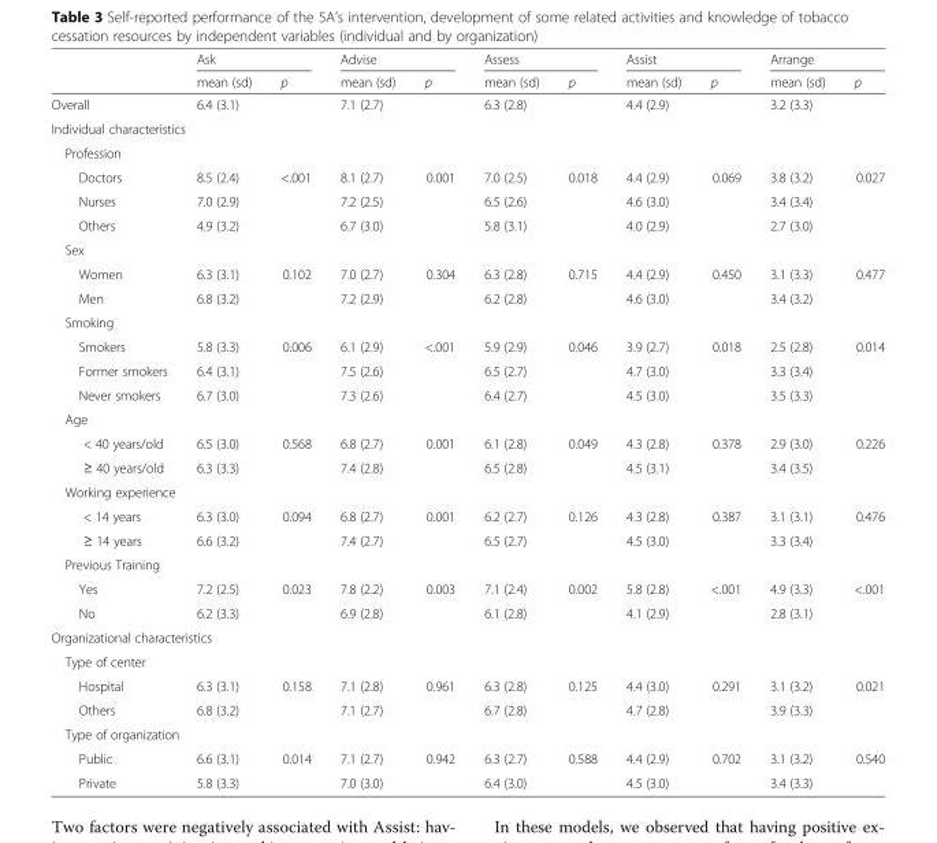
<table><thead><tr><td rowspan="2"></td><td colspan="2">Ask</td><td colspan="2">Advise</td><td colspan="2">Assess</td><td colspan="2">Assist</td><td colspan="2">Arrange</td></tr><tr><td>mean (sd)</td><td>p</td><td>mean (sd)</td><td>p</td><td>mean (sd)</td><td>p</td><td>mean (sd)</td><td>p</td><td>mean (sd)</td><td>p</td></tr></thead><tbody><tr><td>Overall</td><td>6.4 (3.1)</td><td></td><td>7.1 (2.7)</td><td></td><td>6.3 (2.8)</td><td></td><td>4.4 (2.9)</td><td></td><td>3.2 (3.3)</td><td></td></tr><tr><td colspan="11">Individual characteristics</td></tr><tr><td colspan="11">Profession</td></tr><tr><td>Doctors</td><td>8.5 (2.4)</td><td rowspan="3">&lt;.001</td><td>8.1 (2.7)</td><td rowspan="3">0.001</td><td>7.0 (2.5)</td><td rowspan="3">0.018</td><td>4.4 (2.9)</td><td rowspan="3">0.069</td><td>3.8 (3.2)</td><td rowspan="3">0.027</td></tr><tr><td>Nurses</td><td>7.0 (2.9)</td><td>7.2 (2.5)</td><td>6.5 (2.6)</td><td>4.6 (3.0)</td><td>3.4 (3.4)</td></tr><tr><td>Others</td><td>4.9 (3.2)</td><td>6.7 (3.0)</td><td>5.8 (3.1)</td><td>4.0 (2.9)</td><td>2.7 (3.0)</td></tr><tr><td colspan="11">Sex</td></tr><tr><td>Women</td><td>6.3 (3.1)</td><td rowspan="2">0.102</td><td>7.0 (2.7)</td><td rowspan="2">0.304</td><td>6.3 (2.8)</td><td rowspan="2">0.715</td><td>4.4 (2.9)</td><td rowspan="2">0.450</td><td>3.1 (3.3)</td><td rowspan="2">0.477</td></tr><tr><td>Men</td><td>6.8 (3.2)</td><td>7.2 (2.9)</td><td>6.2 (2.8)</td><td>4.6 (3.0)</td><td>3.4 (3.2)</td></tr><tr><td colspan="11">Smoking</td></tr><tr><td>Smokers</td><td>5.8 (3.3)</td><td rowspan="3">0.006</td><td>6.1 (2.9)</td><td rowspan="3">&lt;.001</td><td>5.9 (2.9)</td><td rowspan="3">0.046</td><td>3.9 (2.7)</td><td rowspan="3">0.018</td><td>2.5 (2.8)</td><td rowspan="3">0.014</td></tr><tr><td>Former smokers</td><td>6.4 (3.1)</td><td>7.5 (2.6)</td><td>6.5 (2.7)</td><td>4.7 (3.0)</td><td>3.3 (3.4)</td></tr><tr><td>Never smokers</td><td>6.7 (3.0)</td><td>7.3 (2.6)</td><td>6.4 (2.7)</td><td>4.5 (3.0)</td><td>3.5 (3.3)</td></tr><tr><td colspan="11">Age</td></tr><tr><td>&lt; 40 years/old</td><td>6.5 (3.0)</td><td rowspan="2">0.568</td><td>6.8 (2.7)</td><td rowspan="2">0.001</td><td>6.1 (2.8)</td><td rowspan="2">0.049</td><td>4.3 (2.8)</td><td rowspan="2">0.378</td><td>2.9 (3.0)</td><td rowspan="2">0.226</td></tr><tr><td>≥ 40 years/old</td><td>6.3 (3.3)</td><td>7.4 (2.8)</td><td>6.5 (2.8)</td><td>4.5 (3.1)</td><td>3.4 (3.5)</td></tr><tr><td colspan="11">Working experience</td></tr><tr><td>&lt; 14 years</td><td>6.3 (3.0)</td><td rowspan="2">0.094</td><td>6.8 (2.7)</td><td rowspan="2">0.001</td><td>6.2 (2.7)</td><td rowspan="2">0.126</td><td>4.3 (2.8)</td><td rowspan="2">0.387</td><td>3.1 (3.1)</td><td rowspan="2">0.476</td></tr><tr><td>≥ 14 years</td><td>6.6 (3.2)</td><td>7.4 (2.7)</td><td>6.5 (2.7)</td><td>4.5 (3.0)</td><td>3.3 (3.4)</td></tr><tr><td colspan="11">Previous Training</td></tr><tr><td>Yes</td><td>7.2 (2.5)</td><td rowspan="2">0.023</td><td>7.8 (2.2)</td><td rowspan="2">0.003</td><td>7.1 (2.4)</td><td rowspan="2">0.002</td><td>5.8 (2.8)</td><td rowspan="2">&lt;.001</td><td>4.9 (3.3)</td><td rowspan="2">&lt;.001</td></tr><tr><td>No</td><td>6.2 (3.3)</td><td>6.9 (2.8)</td><td>6.1 (2.8)</td><td>4.1 (2.9)</td><td>2.8 (3.1)</td></tr><tr><td colspan="11">Organizational characteristics</td></tr><tr><td colspan="11">Type of center</td></tr><tr><td>Hospital</td><td>6.3 (3.1)</td><td rowspan="2">0.158</td><td>7.1 (2.8)</td><td rowspan="2">0.961</td><td>6.3 (2.8)</td><td rowspan="2">0.125</td><td>4.4 (3.0)</td><td rowspan="2">0.291</td><td>3.1 (3.2)</td><td rowspan="2">0.021</td></tr><tr><td>Others</td><td>6.8 (3.2)</td><td>7.1 (2.7)</td><td>6.7 (2.8)</td><td>4.7 (2.8)</td><td>3.9 (3.3)</td></tr><tr><td colspan="11">Type of organization</td></tr><tr><td>Public</td><td>6.6 (3.1)</td><td rowspan="2">0.014</td><td>7.1 (2.7)</td><td rowspan="2">0.942</td><td>6.3 (2.7)</td><td rowspan="2">0.588</td><td>4.4 (2.9)</td><td rowspan="2">0.702</td><td>3.1 (3.2)</td><td rowspan="2">0.540</td></tr><tr><td>Private</td><td>5.8 (3.3)</td><td>7.0 (3.0)</td><td>6.4 (3.0)</td><td>4.5 (3.0)</td><td>3.4 (3.3)</td></tr></tbody></table>